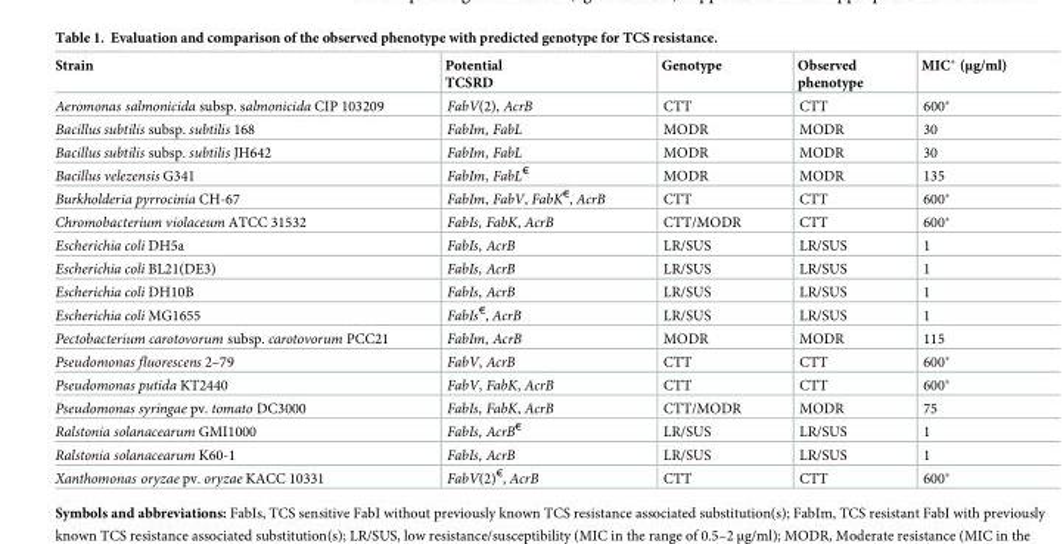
<table><thead><tr><td>Strain</td><td>Potential TCSRD</td><td>Genotype</td><td>Observed phenotype</td><td>MIC* (μg/ml)</td></tr></thead><tbody><tr><td>Aeromonas salmonicida subsp. salmonicida CIP 103209</td><td>FabV(2), AcrB</td><td>CTT</td><td>CTT</td><td>600*</td></tr><tr><td>Bacillus subtilis subsp. subtilis 168</td><td>FabIm, FabL</td><td>MODR</td><td>MODR</td><td>30</td></tr><tr><td>Bacillus subtilis subsp. subtilis JH642</td><td>FabIm, FabL</td><td>MODR</td><td>MODR</td><td>30</td></tr><tr><td>Bacillus velezensis G341</td><td>FabIm, FabL<sup>€</sup></td><td>MODR</td><td>MODR</td><td>135</td></tr><tr><td>Burkholderia pyrrocinia CH-67</td><td>FabIm, FabV, FabK<sup>€</sup>, AcrB</td><td>CTT</td><td>CTT</td><td>600*</td></tr><tr><td>Chromobacterium violaceum ATCC 31532</td><td>FabIs, FabK, AcrB</td><td>CTT/MODR</td><td>CTT</td><td>600*</td></tr><tr><td>Escherichia coli DH5a</td><td>FabIs, AcrB</td><td>LR/SUS</td><td>LR/SUS</td><td>1</td></tr><tr><td>Escherichia coli BL21(DE3)</td><td>FabIs, AcrB</td><td>LR/SUS</td><td>LR/SUS</td><td>1</td></tr><tr><td>Escherichia coli DH10B</td><td>FabIs, AcrB</td><td>LR/SUS</td><td>LR/SUS</td><td>1</td></tr><tr><td>Escherichia coli MG1655</td><td>FabIs<sup>€</sup>, AcrB</td><td>LR/SUS</td><td>LR/SUS</td><td>1</td></tr><tr><td>Pectobacterium carotovorum subsp. carotovorum PCC21</td><td>FabIm, AcrB</td><td>MODR</td><td>MODR</td><td>115</td></tr><tr><td>Pseudomonas fluorescens 2–79</td><td>FabV, AcrB</td><td>CTT</td><td>CTT</td><td>600*</td></tr><tr><td>Pseudomonas putida KT2440</td><td>FabV, FabK, AcrB</td><td>CTT</td><td>CTT</td><td>600*</td></tr><tr><td>Pseudomonas syringae pv. tomato DC3000</td><td>FabIs, FabK, AcrB</td><td>CTT/MODR</td><td>MODR</td><td>75</td></tr><tr><td>Ralstonia solanacearum GMI1000</td><td>FabIs, AcrB<sup>€</sup></td><td>LR/SUS</td><td>LR/SUS</td><td>1</td></tr><tr><td>Ralstonia solanacearum K60-1</td><td>FabIs, AcrB</td><td>LR/SUS</td><td>LR/SUS</td><td>1</td></tr><tr><td>Xanthomonas oryzae pv. oryzae KACC 10331</td><td>FabV(2)<sup>€</sup>, AcrB</td><td>CTT</td><td>CTT</td><td>600*</td></tr></tbody></table>